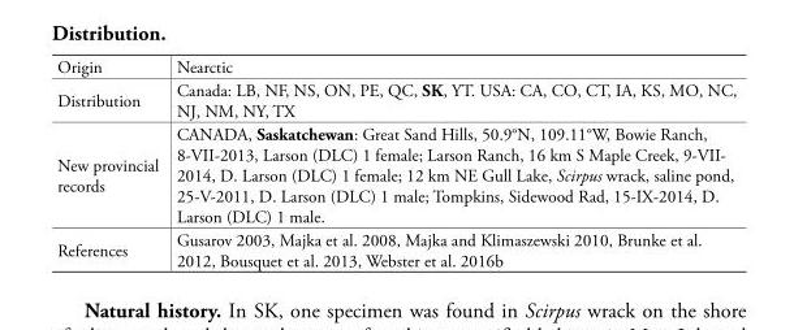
<table><tbody><tr><td>Origin</td><td>Nearctic</td></tr><tr><td>Distribution</td><td>Canada: LB, NF, NS, ON, PE, QC, SK, YT. USA: CA, CO, CT, IA, KS, MO, NC, NJ, NM, NY, TX</td></tr><tr><td>New provincial records</td><td>CANADA, Saskatchewan: Great Sand Hills, 50.9°N, 109.11°W, Bowie Ranch, 8-VII-2013, Larson (DLC) 1 female; Larson Ranch, 16 km S Maple Creek, 9-VII- 2014, D. Larson (DLC) 1 female; 12 km NE Gull Lake, Scirpus wrack, saline pond, 25-V-2011, D. Larson (DLC) 1 male; Tompkins, Sidewood Rad, 15-IX-2014, D. Larson (DLC) 1 male.</td></tr><tr><td>References</td><td>Gusarov 2003, Majka et al. 2008, Majka and Klimaszewski 2010, Brunke et al. 2012, Bousquet et al. 2013, Webster et al. 2016b</td></tr></tbody></table>